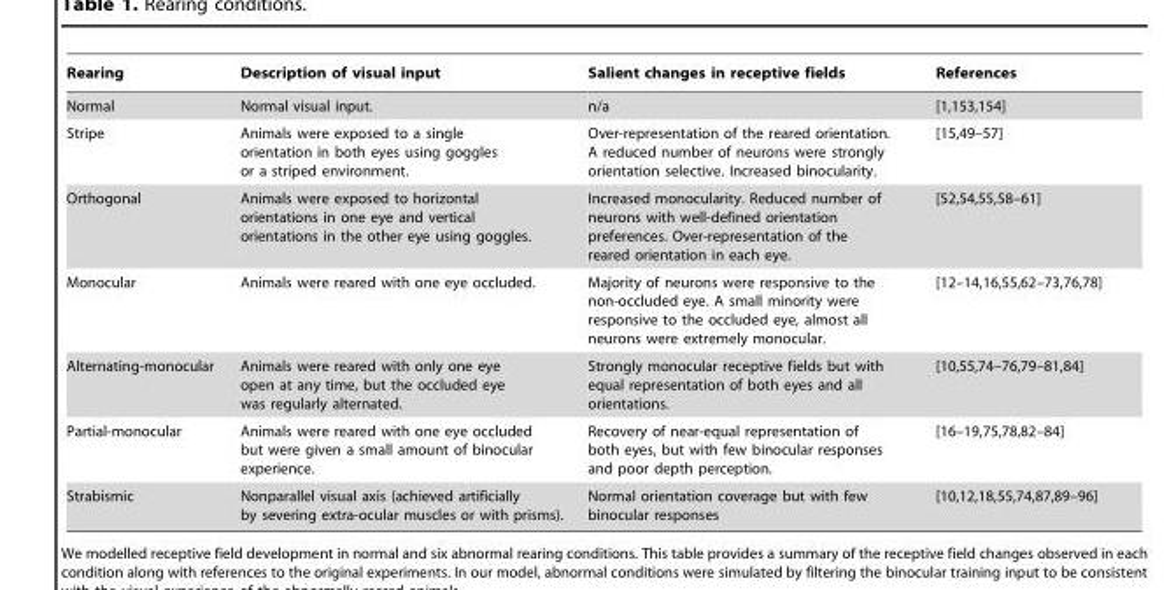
<table><thead><tr><td>Rearing</td><td>Description of visual input</td><td>Salient changes in receptive fields</td><td>References</td></tr></thead><tbody><tr><td>Normal</td><td>Normal visual input.</td><td>n/a</td><td>[1,153,154]</td></tr><tr><td>Stripe</td><td>Animals were exposed to a single orientation in both eyes using goggles or a striped environment.</td><td>Over-representation of the reared orientation. A reduced number of neurons were strongly orientation selective. Increased binocularity.</td><td>[15,49–57]</td></tr><tr><td>Orthogonal</td><td>Animals were exposed to horizontal orientations in one eye and vertical orientations in the other eye using goggles.</td><td>Increased monocularity. Reduced number of neurons with well-defined orientation preferences. Over-representation of the reared orientation in each eye.</td><td>[52,54,55,58–61]</td></tr><tr><td>Monocular</td><td>Animals were reared with one eye occluded.</td><td>Majority of neurons were responsive to the non-occluded eye. A small minority were responsive to the occluded eye, almost all neurons were extremely monocular.</td><td>[12–14,16,55,62–73,76,78]</td></tr><tr><td>Alternating-monocular</td><td>Animals were reared with only one eye open at any time, but the occluded eye was regularly alternated.</td><td>Strongly monocular receptive fields but with equal representation of both eyes and all orientations.</td><td>[10,55,74–76,79–81,84]</td></tr><tr><td>Partial-monocular</td><td>Animals were reared with one eye occluded but were given a small amount of binocular experience.</td><td>Recovery of near-equal representation of both eyes, but with few binocular responses and poor depth perception.</td><td>[16–19,75,78,82–84]</td></tr><tr><td>Strabismic</td><td>Nonparallel visual axis (achieved artificially by severing extra-ocular muscles or with prisms).</td><td>Normal orientation coverage but with few binocular responses</td><td>[10,12,18,55,74,87,89–96]</td></tr></tbody></table>